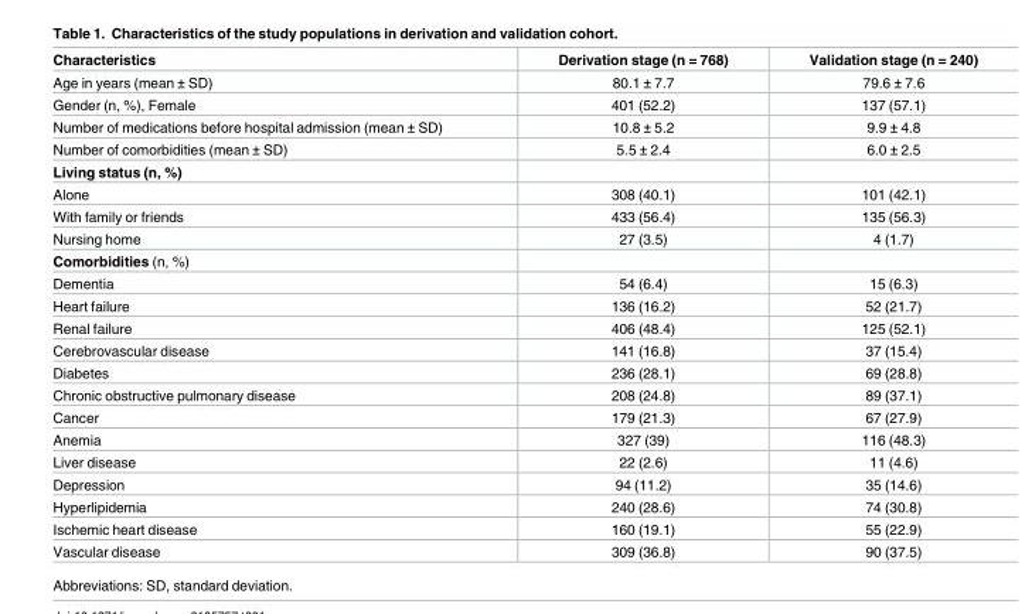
<table><thead><tr><td>Characteristics</td><td>Derivation stage (n = 768)</td><td>Validation stage (n = 240)</td></tr></thead><tbody><tr><td>Age in years (mean ± SD)</td><td>80.1 ± 7.7</td><td>79.6 ± 7.6</td></tr><tr><td>Gender (n, %), Female</td><td>401 (52.2)</td><td>137 (57.1)</td></tr><tr><td>Number of medications before hospital admission (mean ± SD)</td><td>10.8 ± 5.2</td><td>9.9 ± 4.8</td></tr><tr><td>Number of comorbidities (mean ± SD)</td><td>5.5 ± 2.4</td><td>6.0 ± 2.5</td></tr><tr><td colspan="3">Living status (n, %)</td></tr><tr><td>Alone</td><td>308 (40.1)</td><td>101 (42.1)</td></tr><tr><td>With family or friends</td><td>433 (56.4)</td><td>135 (56.3)</td></tr><tr><td>Nursing home</td><td>27 (3.5)</td><td>4 (1.7)</td></tr><tr><td colspan="3">Comorbidities (n, %)</td></tr><tr><td>Dementia</td><td>54 (6.4)</td><td>15 (6.3)</td></tr><tr><td>Heart failure</td><td>136 (16.2)</td><td>52 (21.7)</td></tr><tr><td>Renal failure</td><td>406 (48.4)</td><td>125 (52.1)</td></tr><tr><td>Cerebrovascular disease</td><td>141 (16.8)</td><td>37 (15.4)</td></tr><tr><td>Diabetes</td><td>236 (28.1)</td><td>69 (28.8)</td></tr><tr><td>Chronic obstructive pulmonary disease</td><td>208 (24.8)</td><td>89 (37.1)</td></tr><tr><td>Cancer</td><td>179 (21.3)</td><td>67 (27.9)</td></tr><tr><td>Anemia</td><td>327 (39)</td><td>116 (48.3)</td></tr><tr><td>Liver disease</td><td>22 (2.6)</td><td>11 (4.6)</td></tr><tr><td>Depression</td><td>94 (11.2)</td><td>35 (14.6)</td></tr><tr><td>Hyperlipidemia</td><td>240 (28.6)</td><td>74 (30.8)</td></tr><tr><td>Ischemic heart disease</td><td>160 (19.1)</td><td>55 (22.9)</td></tr><tr><td>Vascular disease</td><td>309 (36.8)</td><td>90 (37.5)</td></tr></tbody></table>